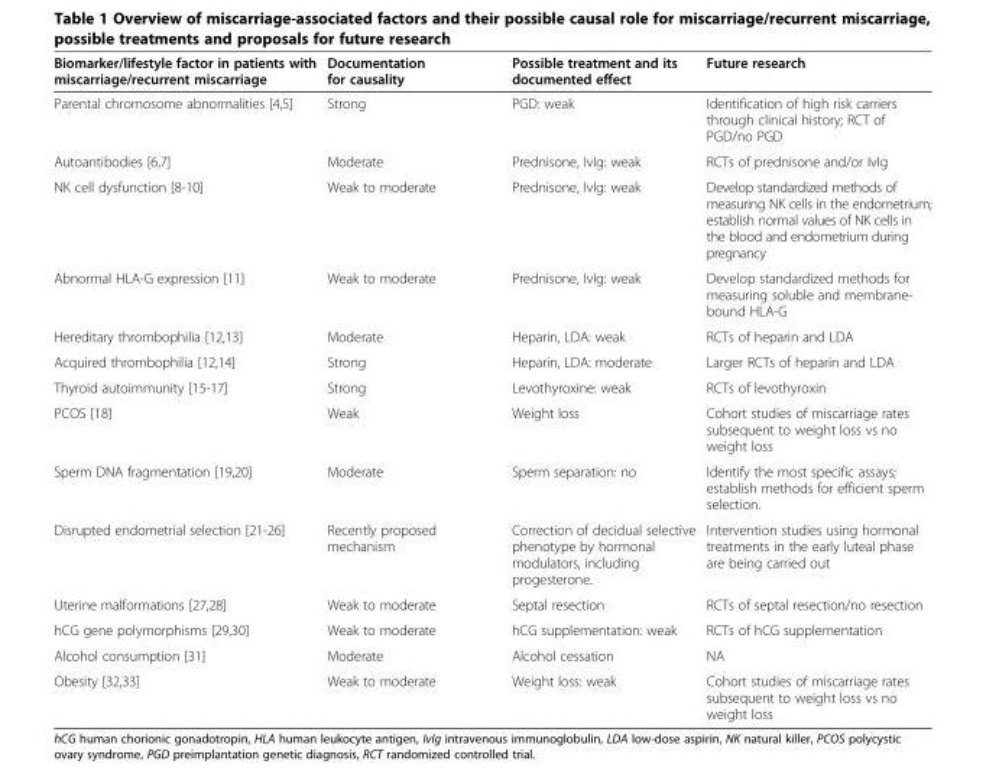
<table><thead><tr><td>Biomarker/lifestyle factor in patients with miscarriage/recurrent miscarriage</td><td>Documentation for causality</td><td>Possible treatment and its documented effect</td><td>Future research</td></tr></thead><tbody><tr><td>Parental chromosome abnormalities [4,5]</td><td>Strong</td><td>PGD: weak</td><td>Identification of high risk carriers through clinical history; RCT of PGD/no PGD</td></tr><tr><td>Autoantibodies [6,7]</td><td>Moderate</td><td>Prednisone, IvIg: weak</td><td>RCTs of prednisone and/or IvIg</td></tr><tr><td>NK cell dysfunction [8-10]</td><td>Weak to moderate</td><td>Prednisone, IvIg: weak</td><td>Develop standardized methods of measuring NK cells in the endometrium; establish normal values of NK cells in the blood and endometrium during pregnancy</td></tr><tr><td>Abnormal HLA-G expression [11]</td><td>Weak to moderate</td><td>Prednisone, IvIg: weak</td><td>Develop standardized methods for measuring soluble and membrane- bound HLA-G</td></tr><tr><td>Hereditary thrombophilia [12,13]</td><td>Moderate</td><td>Heparin, LDA: weak</td><td>RCTs of heparin and LDA</td></tr><tr><td>Acquired thrombophilia [12,14]</td><td>Strong</td><td>Heparin, LDA: moderate</td><td>Larger RCTs of heparin and LDA</td></tr><tr><td>Thyroid autoimmunity [15-17]</td><td>Strong</td><td>Levothyroxine: weak</td><td>RCTs of levothyroxin</td></tr><tr><td>PCOS [18]</td><td>Weak</td><td>Weight loss</td><td>Cohort studies of miscarriage rates subsequent to weight loss vs no weight loss</td></tr><tr><td>Sperm DNA fragmentation [19,20]</td><td>Moderate</td><td>Sperm separation: no</td><td>Identify the most specific assays; establish methods for efficient sperm selection.</td></tr><tr><td>Disrupted endometrial selection [21-26]</td><td>Recently proposed mechanism</td><td>Correction of decidual selective phenotype by hormonal modulators, including progesterone.</td><td>Intervention studies using hormonal treatments in the early luteal phase are being carried out</td></tr><tr><td>Uterine malformations [27,28]</td><td>Weak to moderate</td><td>Septal resection</td><td>RCTs of septal resection/no resection</td></tr><tr><td>hCG gene polymorphisms [29,30]</td><td>Weak to moderate</td><td>hCG supplementation: weak</td><td>RCTs of hCG supplementation</td></tr><tr><td>Alcohol consumption [31]</td><td>Moderate</td><td>Alcohol cessation</td><td>NA</td></tr><tr><td>Obesity [32,33]</td><td>Weak to moderate</td><td>Weight loss: weak</td><td>Cohort studies of miscarriage rates subsequent to weight loss vs no weight loss</td></tr></tbody></table>